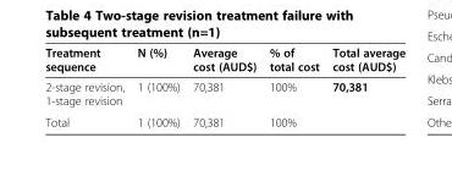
<table><thead><tr><td>Treatment sequence</td><td>N (%)</td><td>Average cost (AUD$)</td><td>% of total cost</td><td>Total average cost (AUD$)</td></tr></thead><tbody><tr><td>2-stage revision, 1-stage revision</td><td>1 (100%)</td><td>70,381</td><td>100%</td><td>70,381</td></tr><tr><td>Total</td><td>1 (100%)</td><td>70,381</td><td>100%</td><td></td></tr></tbody></table>